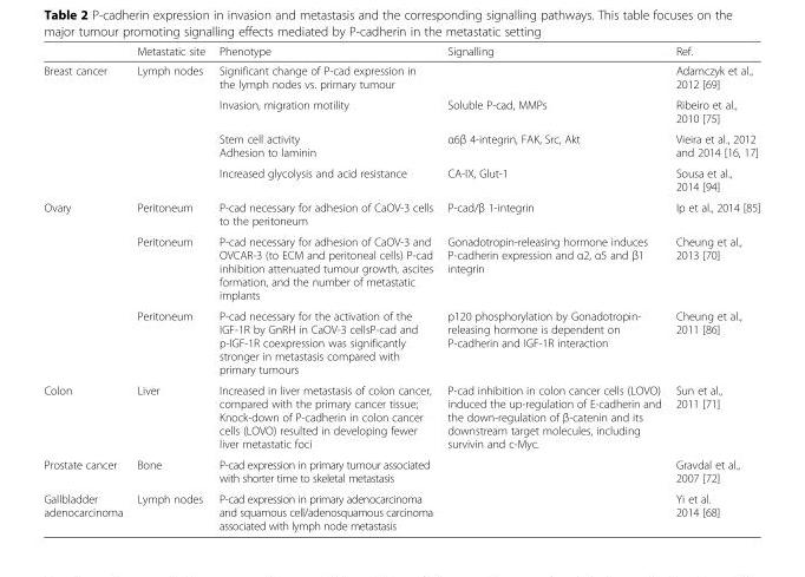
<table><thead><tr><td></td><td>Metastatic site</td><td>Phenotype</td><td>Signalling</td><td>Ref.</td></tr></thead><tbody><tr><td rowspan="4">Breast cancer</td><td>Lymph nodes</td><td>Significant change of P-cad expression in the lymph nodes vs. primary tumour</td><td></td><td>Adamczyk et al., 2012 [69]</td></tr><tr><td></td><td>Invasion, migration motility</td><td>Soluble P-cad, MMPs</td><td>Ribeiro et al., 2010 [75]</td></tr><tr><td></td><td>Stem cell activity Adhesion to laminin</td><td>α6β 4-integrin, FAK, Src, Akt</td><td>Vieira et al., 2012 and 2014 [16, 17]</td></tr><tr><td></td><td>Increased glycolysis and acid resistance</td><td>CA-IX, Glut-1</td><td>Sousa et al., 2014 [94]</td></tr><tr><td rowspan="3">Ovary</td><td>Peritoneum</td><td>P-cad necessary for adhesion of CaOV-3 cells to the peritoneum</td><td>P-cad/β 1-integrin</td><td>Ip et al., 2014 [85]</td></tr><tr><td>Peritoneum</td><td>P-cad necessary for adhesion of CaOV-3 and OVCAR-3 (to ECM and peritoneal cells) P-cad inhibition attenuated tumour growth, ascites formation, and the number of metastatic implants</td><td>Gonadotropin-releasing hormone induces P-cadherin expression and α2, α5 and β1 integrin</td><td>Cheung et al., 2013 [70]</td></tr><tr><td>Peritoneum</td><td>P-cad necessary for the activation of the IGF-1R by GnRH in CaOV-3 cellsP-cad and p-IGF-1R coexpression was significantly stronger in metastasis compared with primary tumours</td><td>p120 phosphorylation by Gonadotropin- releasing hormone is dependent on P-cadherin and IGF-1R interaction</td><td>Cheung et al., 2011 [86]</td></tr><tr><td>Colon</td><td>Liver</td><td>Increased in liver metastasis of colon cancer, compared with the primary cancer tissue; Knock-down of P-cadherin in colon cancer cells (LOVO) resulted in developing fewer liver metastatic foci</td><td>P-cad inhibition in colon cancer cells (LOVO) induced the up-regulation of E-cadherin and the down-regulation of β-catenin and its downstream target molecules, including survivin and c-Myc.</td><td>Sun et al., 2011 [71]</td></tr><tr><td>Prostate cancer</td><td>Bone</td><td>P-cad expression in primary tumour associated with shorter time to skeletal metastasis</td><td></td><td>Gravdal et al., 2007 [72]</td></tr><tr><td>Gallbladder adenocarcinoma</td><td>Lymph nodes</td><td>P-cad expression in primary adenocarcinoma and squamous cell/adenosquamous carcinoma associated with lymph node metastasis</td><td></td><td>Yi et al. 2014 [68]</td></tr></tbody></table>